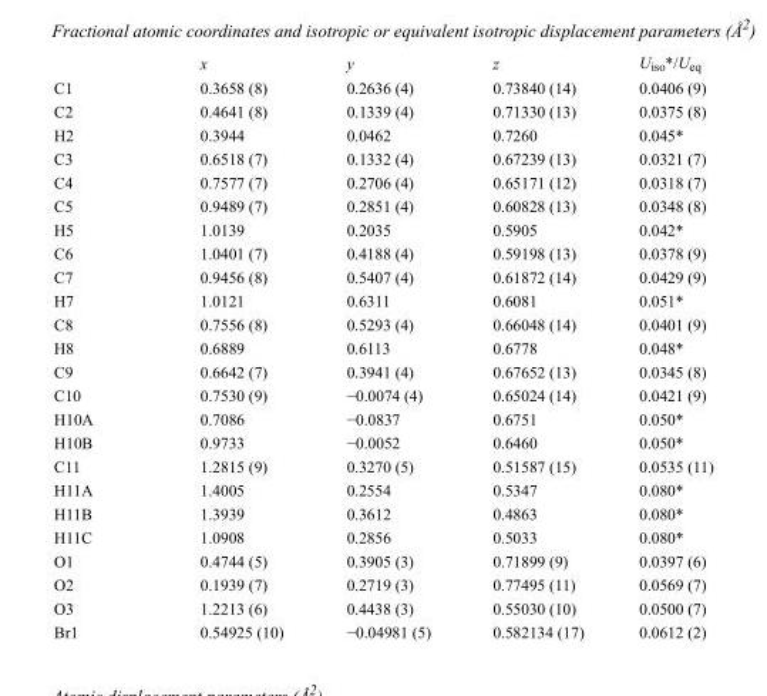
<table><thead><tr><td></td><td>x</td><td>y</td><td>z</td><td>U<sub>iso</sub>*/U<sub>eq</sub></td></tr></thead><tbody><tr><td>C1</td><td>0.3658 (8)</td><td>0.2636 (4)</td><td>0.73840 (14)</td><td>0.0406 (9)</td></tr><tr><td>C2</td><td>0.4641 (8)</td><td>0.1339 (4)</td><td>0.71330 (13)</td><td>0.0375 (8)</td></tr><tr><td>H2</td><td>0.3944</td><td>0.0462</td><td>0.7260</td><td>0.045*</td></tr><tr><td>C3</td><td>0.6518 (7)</td><td>0.1332 (4)</td><td>0.67239 (13)</td><td>0.0321 (7)</td></tr><tr><td>C4</td><td>0.7577 (7)</td><td>0.2706 (4)</td><td>0.65171 (12)</td><td>0.0318 (7)</td></tr><tr><td>C5</td><td>0.9489 (7)</td><td>0.2851 (4)</td><td>0.60828 (13)</td><td>0.0348 (8)</td></tr><tr><td>H5</td><td>1.0139</td><td>0.2035</td><td>0.5905</td><td>0.042*</td></tr><tr><td>C6</td><td>1.0401 (7)</td><td>0.4188 (4)</td><td>0.59198 (13)</td><td>0.0378 (9)</td></tr><tr><td>C7</td><td>0.9456 (8)</td><td>0.5407 (4)</td><td>0.61872 (14)</td><td>0.0429 (9)</td></tr><tr><td>H7</td><td>1.0121</td><td>0.6311</td><td>0.6081</td><td>0.051*</td></tr><tr><td>C8</td><td>0.7556 (8)</td><td>0.5293 (4)</td><td>0.66048 (14)</td><td>0.0401 (9)</td></tr><tr><td>H8</td><td>0.6889</td><td>0.6113</td><td>0.6778</td><td>0.048*</td></tr><tr><td>C9</td><td>0.6642 (7)</td><td>0.3941 (4)</td><td>0.67652 (13)</td><td>0.0345 (8)</td></tr><tr><td>C10</td><td>0.7530 (9)</td><td>−0.0074 (4)</td><td>0.65024 (14)</td><td>0.0421 (9)</td></tr><tr><td>H10A</td><td>0.7086</td><td>−0.0837</td><td>0.6751</td><td>0.050*</td></tr><tr><td>H10B</td><td>0.9733</td><td>−0.0052</td><td>0.6460</td><td>0.050*</td></tr><tr><td>C11</td><td>1.2815 (9)</td><td>0.3270 (5)</td><td>0.51587 (15)</td><td>0.0535 (11)</td></tr><tr><td>H11A</td><td>1.4005</td><td>0.2554</td><td>0.5347</td><td>0.080*</td></tr><tr><td>H11B</td><td>1.3939</td><td>0.3612</td><td>0.4863</td><td>0.080*</td></tr><tr><td>H11C</td><td>1.0908</td><td>0.2856</td><td>0.5033</td><td>0.080*</td></tr><tr><td>O1</td><td>0.4744 (5)</td><td>0.3905 (3)</td><td>0.71899 (9)</td><td>0.0397 (6)</td></tr><tr><td>O2</td><td>0.1939 (7)</td><td>0.2719 (3)</td><td>0.77495 (11)</td><td>0.0569 (7)</td></tr><tr><td>O3</td><td>1.2213 (6)</td><td>0.4438 (3)</td><td>0.55030 (10)</td><td>0.0500 (7)</td></tr><tr><td>Br1</td><td>0.54925 (10)</td><td>−0.04981 (5)</td><td>0.582134 (17)</td><td>0.0612 (2)</td></tr></tbody></table>